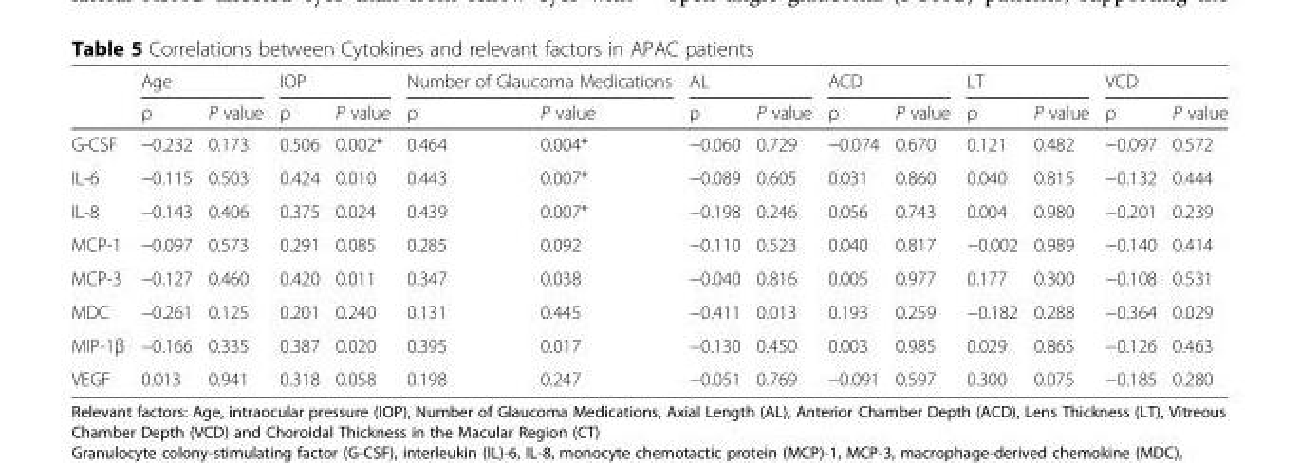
<table><thead><tr><td rowspan="2"></td><td colspan="2">Age</td><td colspan="2">IOP</td><td colspan="2">Number of Glaucoma Medications</td><td colspan="2">AL</td><td colspan="2">ACD</td><td colspan="2">LT</td><td colspan="2">VCD</td></tr><tr><td>ρ</td><td>P value</td><td>ρ</td><td>P value</td><td>ρ</td><td>P value</td><td>ρ</td><td>P value</td><td>ρ</td><td>P value</td><td>ρ</td><td>P value</td><td>ρ</td><td>P value</td></tr></thead><tbody><tr><td>G-CSF</td><td>−0.232</td><td>0.173</td><td>0.506</td><td>0.002*</td><td>0.464</td><td>0.004*</td><td>−0.060</td><td>0.729</td><td>−0.074</td><td>0.670</td><td>0.121</td><td>0.482</td><td>−0.097</td><td>0.572</td></tr><tr><td>IL-6</td><td>−0.115</td><td>0.503</td><td>0.424</td><td>0.010</td><td>0.443</td><td>0.007*</td><td>−0.089</td><td>0.605</td><td>0.031</td><td>0.860</td><td>0.040</td><td>0.815</td><td>−0.132</td><td>0.444</td></tr><tr><td>IL-8</td><td>−0.143</td><td>0.406</td><td>0.375</td><td>0.024</td><td>0.439</td><td>0.007*</td><td>−0.198</td><td>0.246</td><td>0.056</td><td>0.743</td><td>0.004</td><td>0.980</td><td>−0.201</td><td>0.239</td></tr><tr><td>MCP-1</td><td>−0.097</td><td>0.573</td><td>0.291</td><td>0.085</td><td>0.285</td><td>0.092</td><td>−0.110</td><td>0.523</td><td>0.040</td><td>0.817</td><td>−0.002</td><td>0.989</td><td>−0.140</td><td>0.414</td></tr><tr><td>MCP-3</td><td>−0.127</td><td>0.460</td><td>0.420</td><td>0.011</td><td>0.347</td><td>0.038</td><td>−0.040</td><td>0.816</td><td>0.005</td><td>0.977</td><td>0.177</td><td>0.300</td><td>−0.108</td><td>0.531</td></tr><tr><td>MDC</td><td>−0.261</td><td>0.125</td><td>0.201</td><td>0.240</td><td>0.131</td><td>0.445</td><td>−0.411</td><td>0.013</td><td>0.193</td><td>0.259</td><td>−0.182</td><td>0.288</td><td>−0.364</td><td>0.029</td></tr><tr><td>MIP-1β</td><td>−0.166</td><td>0.335</td><td>0.387</td><td>0.020</td><td>0.395</td><td>0.017</td><td>−0.130</td><td>0.450</td><td>0.003</td><td>0.985</td><td>0.029</td><td>0.865</td><td>−0.126</td><td>0.463</td></tr><tr><td>VEGF</td><td>0.013</td><td>0.941</td><td>0.318</td><td>0.058</td><td>0.198</td><td>0.247</td><td>−0.051</td><td>0.769</td><td>−0.091</td><td>0.597</td><td>0.300</td><td>0.075</td><td>−0.185</td><td>0.280</td></tr></tbody></table>